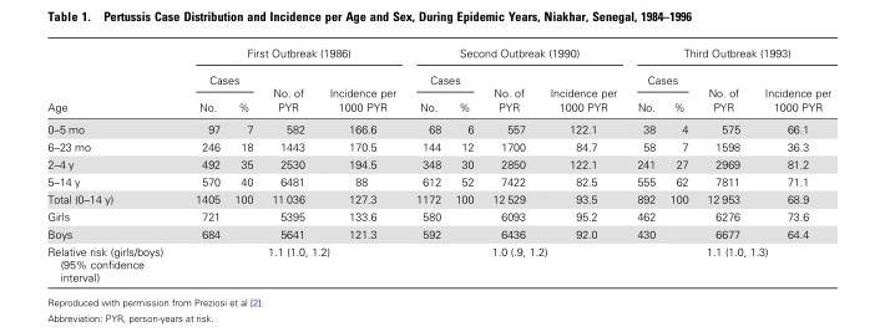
<table><thead><tr><td rowspan="3">Age</td><td colspan="4">First Outbreak (1986)</td><td colspan="4">Second Outbreak (1990)</td><td colspan="4">Third Outbreak (1993)</td></tr><tr><td colspan="2">Cases</td><td rowspan="2">No. of PYR</td><td rowspan="2">Incidence per 1000 PYR</td><td colspan="2">Cases</td><td rowspan="2">No. of PYR</td><td rowspan="2">Incidence per 1000 PYR</td><td colspan="2">Cases</td><td rowspan="2">No. of PYR</td><td rowspan="2">Incidence per 1000 PYR</td></tr><tr><td>No.</td><td>%</td><td>No.</td><td>%</td><td>No.</td><td>%</td></tr></thead><tbody><tr><td>0–5 mo</td><td>97</td><td>7</td><td>582</td><td>166.6</td><td>68</td><td>6</td><td>557</td><td>122.1</td><td>38</td><td>4</td><td>575</td><td>66.1</td></tr><tr><td>6–23 mo</td><td>246</td><td>18</td><td>1443</td><td>170.5</td><td>144</td><td>12</td><td>1700</td><td>84.7</td><td>58</td><td>7</td><td>1598</td><td>36.3</td></tr><tr><td>2–4 y</td><td>492</td><td>35</td><td>2530</td><td>194.5</td><td>348</td><td>30</td><td>2850</td><td>122.1</td><td>241</td><td>27</td><td>2969</td><td>81.2</td></tr><tr><td>5–14 y</td><td>570</td><td>40</td><td>6481</td><td>88</td><td>612</td><td>52</td><td>7422</td><td>82.5</td><td>555</td><td>62</td><td>7811</td><td>71.1</td></tr><tr><td>Total (0–14 y)</td><td>1405</td><td>100</td><td>11 036</td><td>127.3</td><td>1172</td><td>100</td><td>12 529</td><td>93.5</td><td>892</td><td>100</td><td>12 953</td><td>68.9</td></tr><tr><td>Girls</td><td>721</td><td></td><td>5395</td><td>133.6</td><td>580</td><td></td><td>6093</td><td>95.2</td><td>462</td><td></td><td>6276</td><td>73.6</td></tr><tr><td>Boys</td><td>684</td><td></td><td>5641</td><td>121.3</td><td>592</td><td></td><td>6436</td><td>92.0</td><td>430</td><td></td><td>6677</td><td>64.4</td></tr><tr><td>Relative risk (girls/boys) (95% confidence interval)</td><td colspan="4">1.1 (1.0, 1.2)</td><td colspan="4">1.0 (.9, 1.2)</td><td colspan="4">1.1 (1.0, 1.3)</td></tr></tbody></table>